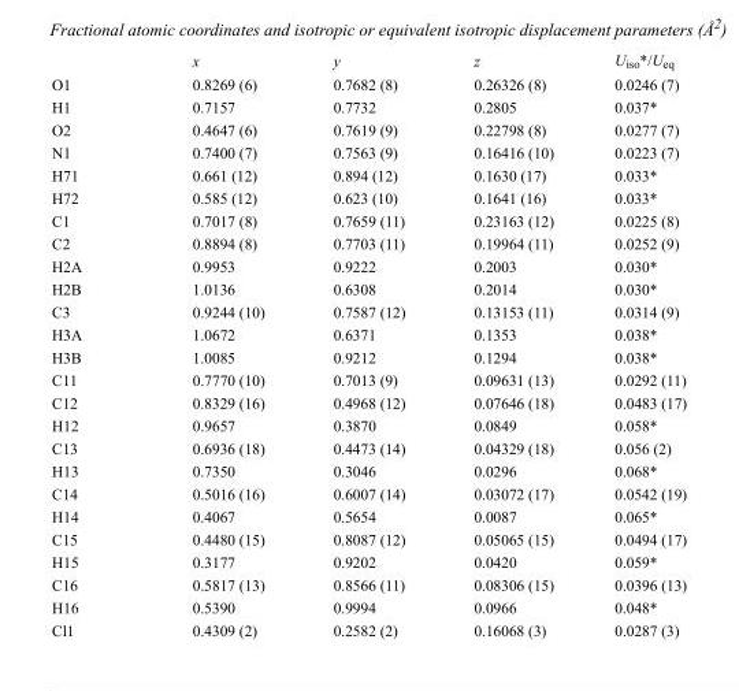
<table><thead><tr><td></td><td>x</td><td>y</td><td>z</td><td>U<sub>iso</sub>*/U<sub>eq</sub></td></tr></thead><tbody><tr><td>O1</td><td>0.8269 (6)</td><td>0.7682 (8)</td><td>0.26326 (8)</td><td>0.0246 (7)</td></tr><tr><td>H1</td><td>0.7157</td><td>0.7732</td><td>0.2805</td><td>0.037*</td></tr><tr><td>O2</td><td>0.4647 (6)</td><td>0.7619 (9)</td><td>0.22798 (8)</td><td>0.0277 (7)</td></tr><tr><td>N1</td><td>0.7400 (7)</td><td>0.7563 (9)</td><td>0.16416 (10)</td><td>0.0223 (7)</td></tr><tr><td>H71</td><td>0.661 (12)</td><td>0.894 (12)</td><td>0.1630 (17)</td><td>0.033*</td></tr><tr><td>H72</td><td>0.585 (12)</td><td>0.623 (10)</td><td>0.1641 (16)</td><td>0.033*</td></tr><tr><td>C1</td><td>0.7017 (8)</td><td>0.7659 (11)</td><td>0.23163 (12)</td><td>0.0225 (8)</td></tr><tr><td>C2</td><td>0.8894 (8)</td><td>0.7703 (11)</td><td>0.19964 (11)</td><td>0.0252 (9)</td></tr><tr><td>H2A</td><td>0.9953</td><td>0.9222</td><td>0.2003</td><td>0.030*</td></tr><tr><td>H2B</td><td>1.0136</td><td>0.6308</td><td>0.2014</td><td>0.030*</td></tr><tr><td>C3</td><td>0.9244 (10)</td><td>0.7587 (12)</td><td>0.13153 (11)</td><td>0.0314 (9)</td></tr><tr><td>H3A</td><td>1.0672</td><td>0.6371</td><td>0.1353</td><td>0.038*</td></tr><tr><td>H3B</td><td>1.0085</td><td>0.9212</td><td>0.1294</td><td>0.038*</td></tr><tr><td>C11</td><td>0.7770 (10)</td><td>0.7013 (9)</td><td>0.09631 (13)</td><td>0.0292 (11)</td></tr><tr><td>C12</td><td>0.8329 (16)</td><td>0.4968 (12)</td><td>0.07646 (18)</td><td>0.0483 (17)</td></tr><tr><td>H12</td><td>0.9657</td><td>0.3870</td><td>0.0849</td><td>0.058*</td></tr><tr><td>C13</td><td>0.6936 (18)</td><td>0.4473 (14)</td><td>0.04329 (18)</td><td>0.056 (2)</td></tr><tr><td>H13</td><td>0.7350</td><td>0.3046</td><td>0.0296</td><td>0.068*</td></tr><tr><td>C14</td><td>0.5016 (16)</td><td>0.6007 (14)</td><td>0.03072 (17)</td><td>0.0542 (19)</td></tr><tr><td>H14</td><td>0.4067</td><td>0.5654</td><td>0.0087</td><td>0.065*</td></tr><tr><td>C15</td><td>0.4480 (15)</td><td>0.8087 (12)</td><td>0.05065 (15)</td><td>0.0494 (17)</td></tr><tr><td>H15</td><td>0.3177</td><td>0.9202</td><td>0.0420</td><td>0.059*</td></tr><tr><td>C16</td><td>0.5817 (13)</td><td>0.8566 (11)</td><td>0.08306 (15)</td><td>0.0396 (13)</td></tr><tr><td>H16</td><td>0.5390</td><td>0.9994</td><td>0.0966</td><td>0.048*</td></tr><tr><td>Cl1</td><td>0.4309 (2)</td><td>0.2582 (2)</td><td>0.16068 (3)</td><td>0.0287 (3)</td></tr></tbody></table>